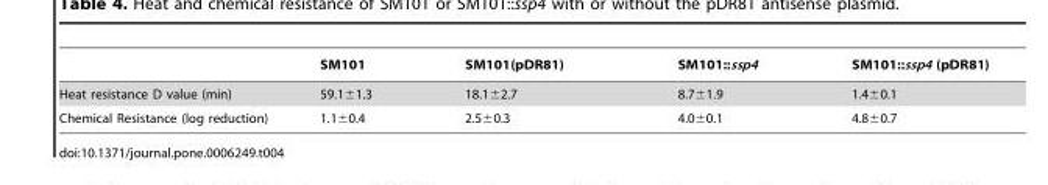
<table><thead><tr><td></td><td>SM101</td><td>SM101(pDR81)</td><td>SM101::ssp4</td><td>SM101::ssp4 (pDR81)</td></tr></thead><tbody><tr><td>Heat resistance D value (min)</td><td>59.1±1.3</td><td>18.1±2.7</td><td>8.7±1.9</td><td>1.4±0.1</td></tr><tr><td>Chemical Resistance (log reduction)</td><td>1.1±0.4</td><td>2.5±0.3</td><td>4.0±0.1</td><td>4.8±0.7</td></tr></tbody></table>